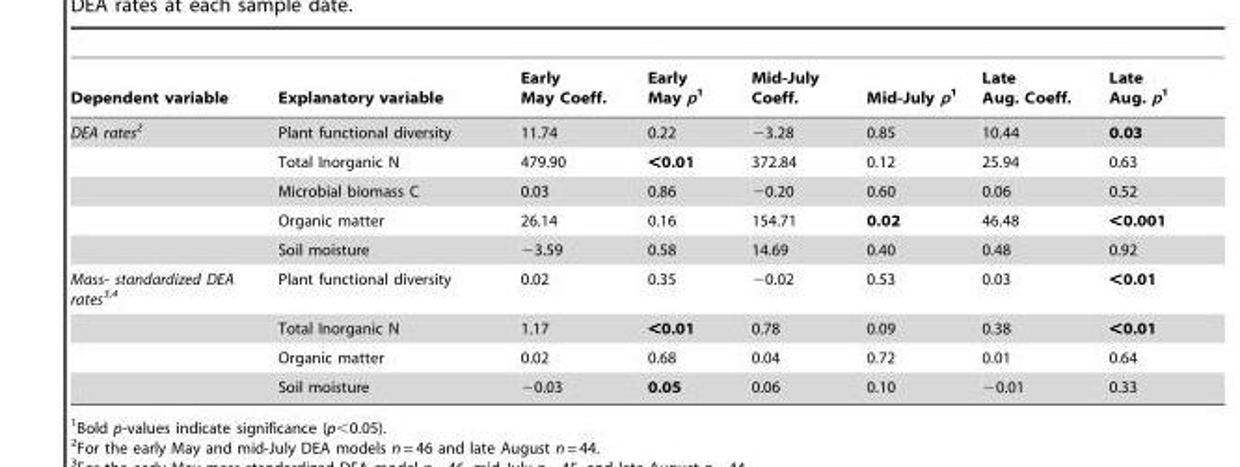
<table><thead><tr><td>Dependent variable</td><td>Explanatory variable</td><td>Early May Coeff.</td><td>Early May p1</td><td>Mid-July Coeff.</td><td>Mid-July p1</td><td>Late Aug. Coeff.</td><td>Late Aug. p1</td></tr></thead><tbody><tr><td rowspan="5">DEA rates2</td><td>Plant functional diversity</td><td>11.74</td><td>0.22</td><td>−3.28</td><td>0.85</td><td>10.44</td><td>0.03</td></tr><tr><td>Total Inorganic N</td><td>479.90</td><td>&lt;0.01</td><td>372.84</td><td>0.12</td><td>25.94</td><td>0.63</td></tr><tr><td>Microbial biomass C</td><td>0.03</td><td>0.86</td><td>−0.20</td><td>0.60</td><td>0.06</td><td>0.52</td></tr><tr><td>Organic matter</td><td>26.14</td><td>0.16</td><td>154.71</td><td>0.02</td><td>46.48</td><td>&lt;0.001</td></tr><tr><td>Soil moisture</td><td>−3.59</td><td>0.58</td><td>14.69</td><td>0.40</td><td>0.48</td><td>0.92</td></tr><tr><td rowspan="4">Mass- standardized DEA rates3,4</td><td>Plant functional diversity</td><td>0.02</td><td>0.35</td><td>−0.02</td><td>0.53</td><td>0.03</td><td>&lt;0.01</td></tr><tr><td>Total Inorganic N</td><td>1.17</td><td>&lt;0.01</td><td>0.78</td><td>0.09</td><td>0.38</td><td>&lt;0.01</td></tr><tr><td>Organic matter</td><td>0.02</td><td>0.68</td><td>0.04</td><td>0.72</td><td>0.01</td><td>0.64</td></tr><tr><td>Soil moisture</td><td>−0.03</td><td>0.05</td><td>0.06</td><td>0.10</td><td>−0.01</td><td>0.33</td></tr></tbody></table>